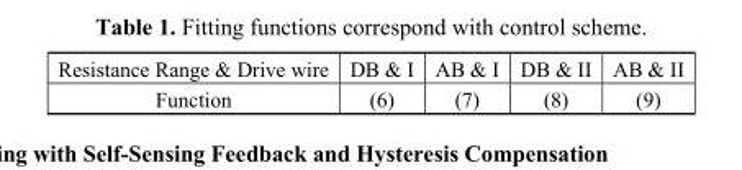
<table><thead><tr><td>Resistance Range &amp; Drive wire</td><td>DB &amp; I</td><td>AB &amp; I</td><td>DB &amp; II</td><td>AB &amp; II</td></tr></thead><tbody><tr><td>Function</td><td>(6)</td><td>(7)</td><td>(8)</td><td>(9)</td></tr></tbody></table>